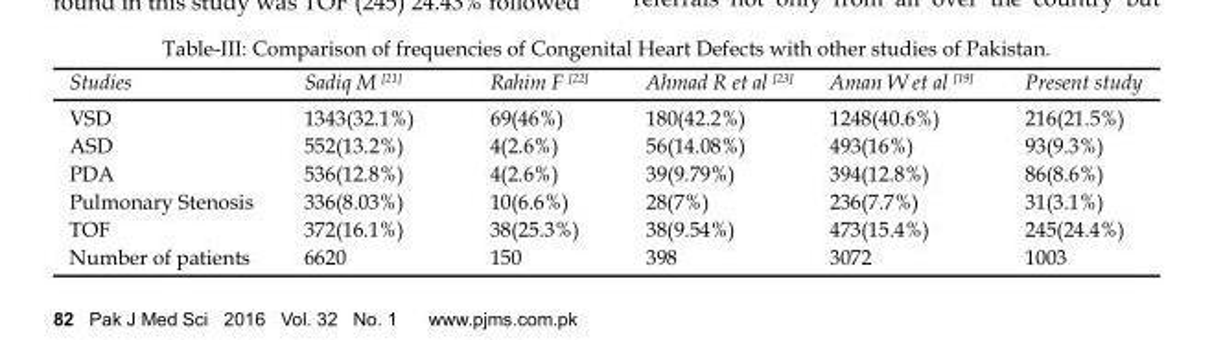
<table><thead><tr><td>Studies</td><td>Sadiq M <sup>[21]</sup></td><td>Rahim F <sup>[22]</sup></td><td>Ahmad R et al <sup>[23]</sup></td><td>Aman W et al <sup>[19]</sup></td><td>Present study</td></tr></thead><tbody><tr><td>VSD</td><td>1343(32.1%)</td><td>69(46%)</td><td>180(42.2%)</td><td>1248(40.6%)</td><td>216(21.5%)</td></tr><tr><td>ASD</td><td>552(13.2%)</td><td>4(2.6%)</td><td>56(14.08%)</td><td>493(16%)</td><td>93(9.3%)</td></tr><tr><td>PDA</td><td>536(12.8%)</td><td>4(2.6%)</td><td>39(9.79%)</td><td>394(12.8%)</td><td>86(8.6%)</td></tr><tr><td>Pulmonary Stenosis</td><td>336(8.03%)</td><td>10(6.6%)</td><td>28(7%)</td><td>236(7.7%)</td><td>31(3.1%)</td></tr><tr><td>TOF</td><td>372(16.1%)</td><td>38(25.3%)</td><td>38(9.54%)</td><td>473(15.4%)</td><td>245(24.4%)</td></tr><tr><td>Number of patients</td><td>6620</td><td>150</td><td>398</td><td>3072</td><td>1003</td></tr></tbody></table>